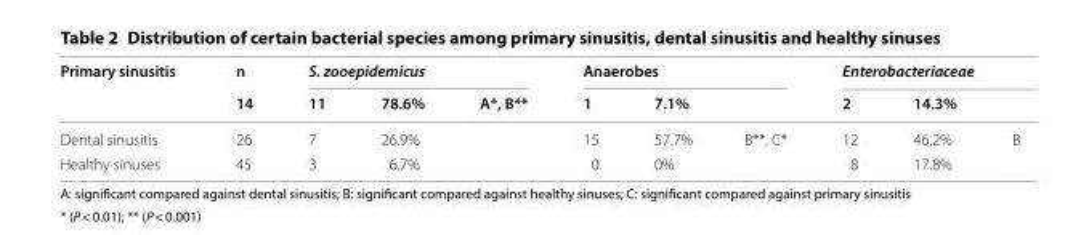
<table><thead><tr><td rowspan="2">Primary sinusitis</td><td rowspan="2">n 14</td><td colspan="3">S. zooepidemicus</td><td colspan="3">Anaerobes</td><td colspan="3">Enterobacteriaceae</td></tr><tr><td>11</td><td>78.6%</td><td>A*, B**</td><td>1</td><td>7.1%</td><td></td><td>2</td><td>14.3%</td><td></td></tr></thead><tbody><tr><td>Dental sinusitis</td><td>26</td><td>7</td><td>26.9%</td><td></td><td>15</td><td>57.7%</td><td>B**, C*</td><td>12</td><td>46.2%</td><td>B</td></tr><tr><td>Healthy sinuses</td><td>45</td><td>3</td><td>6.7%</td><td></td><td>0</td><td>0%</td><td></td><td>8</td><td>17.8%</td><td></td></tr></tbody></table>